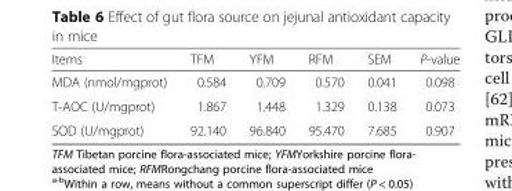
<table><thead><tr><td>Items</td><td>TFM</td><td>YFM</td><td>RFM</td><td>SEM</td><td>P-value</td></tr></thead><tbody><tr><td>MDA (nmol/mgprot)</td><td>0.584</td><td>0.709</td><td>0.570</td><td>0.041</td><td>0.098</td></tr><tr><td>T-AOC (U/mgprot)</td><td>1.867</td><td>1.448</td><td>1.329</td><td>0.138</td><td>0.073</td></tr><tr><td>SOD (U/mgprot)</td><td>92.140</td><td>96.840</td><td>95.470</td><td>7.685</td><td>0.907</td></tr></tbody></table>